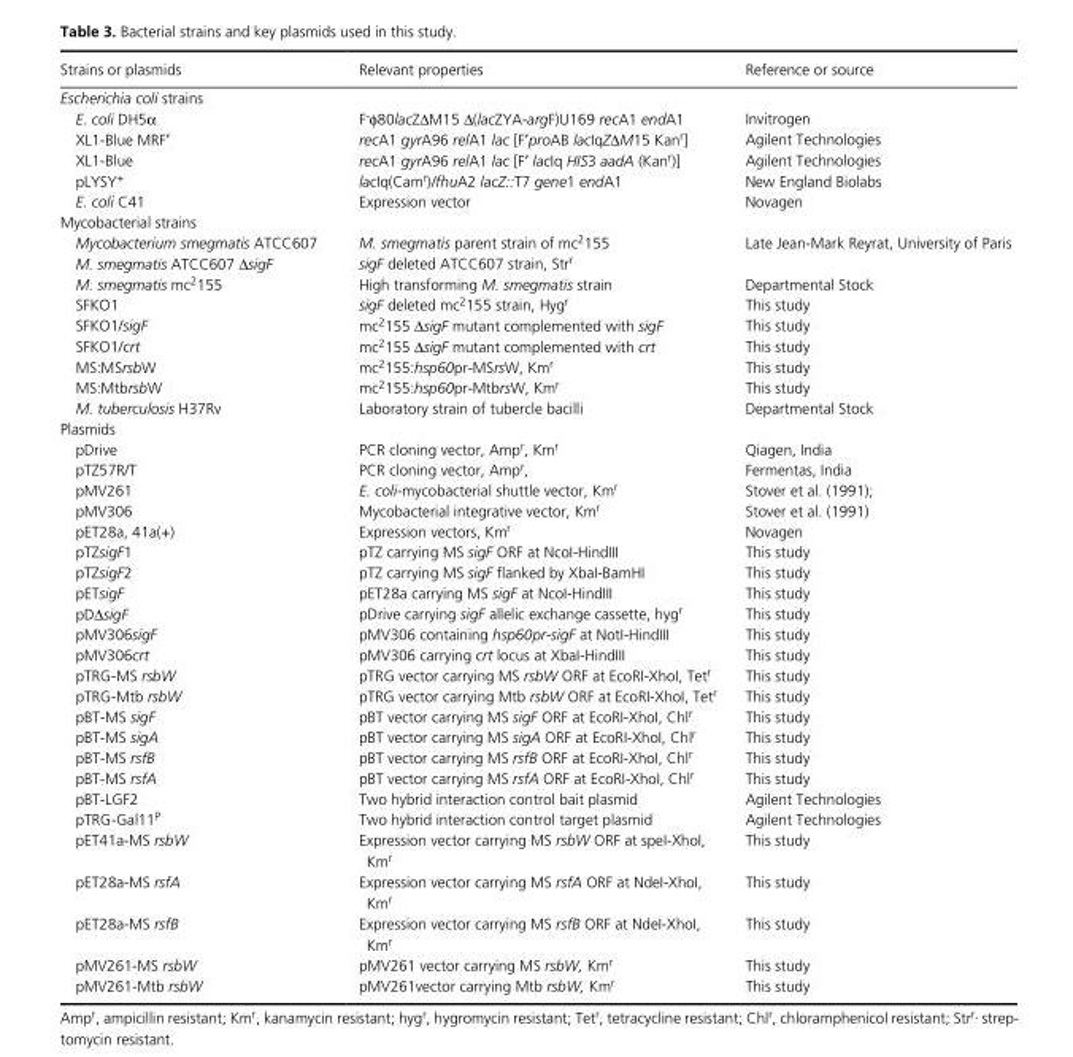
<table><thead><tr><td>Strains or plasmids</td><td>Relevant properties</td><td>Reference or source</td></tr></thead><tbody><tr><td colspan="3">Escherichia coli strains</td></tr><tr><td>E. coli DH5α</td><td>F<sup>-</sup>φ80lacZΔM15 Δ(lacZYA- argF)U169 recA1 endA1</td><td>Invitrogen</td></tr><tr><td>XL1- Blue MRF′</td><td>recA1 gyrA96 relA1 lac [F′proAB lacIqZΔM15 Kan<sup>r</sup>]</td><td>Agilent Technologies</td></tr><tr><td>XL1- Blue</td><td>recA1 gyrA96 relA1 lac [F′ lacIq HIS3 aadA (Kan<sup>r</sup>)]</td><td>Agilent Technologies</td></tr><tr><td>pLYSY<sup>+</sup></td><td>lacIq(Cam<sup>r</sup>)/fhuA2 lacZ::T7 gene1 endA1</td><td>New England Biolabs</td></tr><tr><td>E. coli C41</td><td>Expression vector</td><td>Novagen</td></tr><tr><td colspan="3">Mycobacterial strains</td></tr><tr><td>Mycobacterium smegmatis ATCC607</td><td>M. smegmatis parent strain of mc<sup>2</sup>155</td><td>Late Jean- Mark Reyrat, University of Paris</td></tr><tr><td>M. smegmatis ATCC607 ΔsigF</td><td>sigF deleted ATCC607 strain, Str<sup>r</sup></td><td></td></tr><tr><td>M. smegmatis mc<sup>2</sup>155</td><td>High transforming M. smegmatis strain</td><td>Departmental Stock</td></tr><tr><td>SFKO1</td><td>sigF deleted mc<sup>2</sup>155 strain, Hyg<sup>r</sup></td><td>This study</td></tr><tr><td>SFKO1/sigF</td><td>mc<sup>2</sup>155 ΔsigF mutant complemented with sigF</td><td>This study</td></tr><tr><td>SFKO1/crt</td><td>mc<sup>2</sup>155 ΔsigF mutant complemented with crt</td><td>This study</td></tr><tr><td>MS:MSrsbW</td><td>mc<sup>2</sup>155:hsp60pr- MSrsW, Km<sup>r</sup></td><td>This study</td></tr><tr><td>MS:MtbrsbW</td><td>mc<sup>2</sup>155:hsp60pr- MtbrsW, Km<sup>r</sup></td><td>This study</td></tr><tr><td>M. tuberculosis H37Rv</td><td>Laboratory strain of tubercle bacilli</td><td>Departmental Stock</td></tr><tr><td colspan="3">Plasmids</td></tr><tr><td>pDrive</td><td>PCR cloning vector, Amp<sup>r</sup>, Km<sup>r</sup></td><td>Qiagen, India</td></tr><tr><td>pTZ57R/T</td><td>PCR cloning vector, Amp<sup>r</sup>,</td><td>Fermentas, India</td></tr><tr><td>pMV261</td><td>E. coli- mycobacterial shuttle vector, Km<sup>r</sup></td><td>Stover et al. (1991);</td></tr><tr><td>pMV306</td><td>Mycobacterial integrative vector, Km<sup>r</sup></td><td>Stover et al. (1991)</td></tr><tr><td>pET28a, 41a(+)</td><td>Expression vectors, Km<sup>r</sup></td><td>Novagen</td></tr><tr><td>pTZsigF1</td><td>pTZ carrying MS sigF ORF at NcoI- HindIII</td><td>This study</td></tr><tr><td>pTZsigF2</td><td>pTZ carrying MS sigF flanked by XbaI- BamHI</td><td>This study</td></tr><tr><td>pETsigF</td><td>pET28a carrying MS sigF at NcoI- HindIII</td><td>This study</td></tr><tr><td>pDΔsigF</td><td>pDrive carrying sigF allelic exchange cassette, hyg<sup>r</sup></td><td>This study</td></tr><tr><td>pMV306sigF</td><td>pMV306 containing hsp60pr-sigF at NotI- HindIII</td><td>This study</td></tr><tr><td>pMV306crt</td><td>pMV306 carrying crt locus at XbaI- HindIII</td><td>This study</td></tr><tr><td>pTRG- MS rsbW</td><td>pTRG vector carrying MS rsbW ORF at EcoRI- XhoI, Tet<sup>r</sup></td><td>This study</td></tr><tr><td>pTRG- Mtb rsbW</td><td>pTRG vector carrying Mtb rsbW ORF at EcoRI- XhoI, Tet<sup>r</sup></td><td>This study</td></tr><tr><td>pBT- MS sigF</td><td>pBT vector carrying MS sigF ORF at EcoRI- XhoI, Chl<sup>r</sup></td><td>This study</td></tr><tr><td>pBT- MS sigA</td><td>pBT vector carrying MS sigA ORF at EcoRI- XhoI, Chl<sup>r</sup></td><td>This study</td></tr><tr><td>pBT- MS rsfB</td><td>pBT vector carrying MS rsfB ORF at EcoRI- XhoI, Chl<sup>r</sup></td><td>This study</td></tr><tr><td>pBT- MS rsfA</td><td>pBT vector carrying MS rsfA ORF at EcoRI- XhoI, Chl<sup>r</sup></td><td>This study</td></tr><tr><td>pBT- LGF2</td><td>Two hybrid interaction control bait plasmid</td><td>Agilent Technologies</td></tr><tr><td>pTRG- Gal11<sup>P</sup></td><td>Two hybrid interaction control target plasmid</td><td>Agilent Technologies</td></tr><tr><td>pET41a- MS rsbW</td><td>Expression vector carrying MS rsbW ORF at speI- XhoI, Km<sup>r</sup></td><td>This study</td></tr><tr><td>pET28a- MS rsfA</td><td>Expression vector carrying MS rsfA ORF at NdeI- XhoI, Km<sup>r</sup></td><td>This study</td></tr><tr><td>pET28a- MS rsfB</td><td>Expression vector carrying MS rsfB ORF at NdeI- XhoI, Km<sup>r</sup></td><td>This study</td></tr><tr><td>pMV261- MS rsbW</td><td>pMV261 vector carrying MS rsbW, Km<sup>r</sup></td><td>This study</td></tr><tr><td>pMV261- Mtb rsbW</td><td>pMV261vector carrying Mtb rsbW, Km<sup>r</sup></td><td>This study</td></tr></tbody></table>